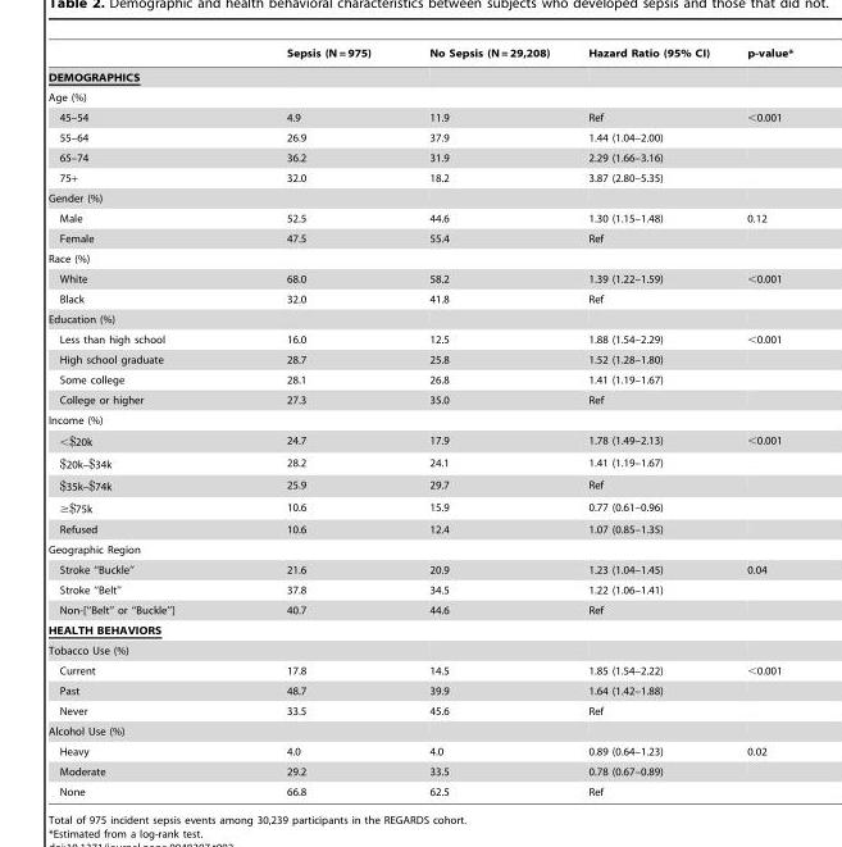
<table><thead><tr><td></td><td>Sepsis (N = 975)</td><td>No Sepsis (N = 29,208)</td><td>Hazard Ratio (95% CI)</td><td>p-value*</td></tr></thead><tbody><tr><td colspan="5">DEMOGRAPHICS</td></tr><tr><td colspan="5">Age (%)</td></tr><tr><td>45–54</td><td>4.9</td><td>11.9</td><td>Ref</td><td>&lt;0.001</td></tr><tr><td>55–64</td><td>26.9</td><td>37.9</td><td>1.44 (1.04–2.00)</td><td></td></tr><tr><td>65–74</td><td>36.2</td><td>31.9</td><td>2.29 (1.66–3.16)</td><td></td></tr><tr><td>75+</td><td>32.0</td><td>18.2</td><td>3.87 (2.80–5.35)</td><td></td></tr><tr><td colspan="5">Gender (%)</td></tr><tr><td>Male</td><td>52.5</td><td>44.6</td><td>1.30 (1.15–1.48)</td><td>0.12</td></tr><tr><td>Female</td><td>47.5</td><td>55.4</td><td>Ref</td><td></td></tr><tr><td colspan="5">Race (%)</td></tr><tr><td>White</td><td>68.0</td><td>58.2</td><td>1.39 (1.22–1.59)</td><td>&lt;0.001</td></tr><tr><td>Black</td><td>32.0</td><td>41.8</td><td>Ref</td><td></td></tr><tr><td colspan="5">Education (%)</td></tr><tr><td>Less than high school</td><td>16.0</td><td>12.5</td><td>1.88 (1.54–2.29)</td><td>&lt;0.001</td></tr><tr><td>High school graduate</td><td>28.7</td><td>25.8</td><td>1.52 (1.28–1.80)</td><td></td></tr><tr><td>Some college</td><td>28.1</td><td>26.8</td><td>1.41 (1.19–1.67)</td><td></td></tr><tr><td>College or higher</td><td>27.3</td><td>35.0</td><td>Ref</td><td></td></tr><tr><td colspan="5">Income (%)</td></tr><tr><td>&lt;$20k</td><td>24.7</td><td>17.9</td><td>1.78 (1.49–2.13)</td><td>&lt;0.001</td></tr><tr><td>$20k–$34k</td><td>28.2</td><td>24.1</td><td>1.41 (1.19–1.67)</td><td></td></tr><tr><td>$35k–$74k</td><td>25.9</td><td>29.7</td><td>Ref</td><td></td></tr><tr><td>≥$75k</td><td>10.6</td><td>15.9</td><td>0.77 (0.61–0.96)</td><td></td></tr><tr><td>Refused</td><td>10.6</td><td>12.4</td><td>1.07 (0.85–1.35)</td><td></td></tr><tr><td colspan="5">Geographic Region</td></tr><tr><td>Stroke ‘‘Buckle’’</td><td>21.6</td><td>20.9</td><td>1.23 (1.04–1.45)</td><td>0.04</td></tr><tr><td>Stroke ‘‘Belt’’</td><td>37.8</td><td>34.5</td><td>1.22 (1.06–1.41)</td><td></td></tr><tr><td>Non-[‘‘Belt’’ or ‘‘Buckle’’]</td><td>40.7</td><td>44.6</td><td>Ref</td><td></td></tr><tr><td colspan="5">HEALTH BEHAVIORS</td></tr><tr><td colspan="5">Tobacco Use (%)</td></tr><tr><td>Current</td><td>17.8</td><td>14.5</td><td>1.85 (1.54–2.22)</td><td>&lt;0.001</td></tr><tr><td>Past</td><td>48.7</td><td>39.9</td><td>1.64 (1.42–1.88)</td><td></td></tr><tr><td>Never</td><td>33.5</td><td>45.6</td><td>Ref</td><td></td></tr><tr><td colspan="5">Alcohol Use (%)</td></tr><tr><td>Heavy</td><td>4.0</td><td>4.0</td><td>0.89 (0.64–1.23)</td><td>0.02</td></tr><tr><td>Moderate</td><td>29.2</td><td>33.5</td><td>0.78 (0.67–0.89)</td><td></td></tr><tr><td>None</td><td>66.8</td><td>62.5</td><td>Ref</td><td></td></tr></tbody></table>